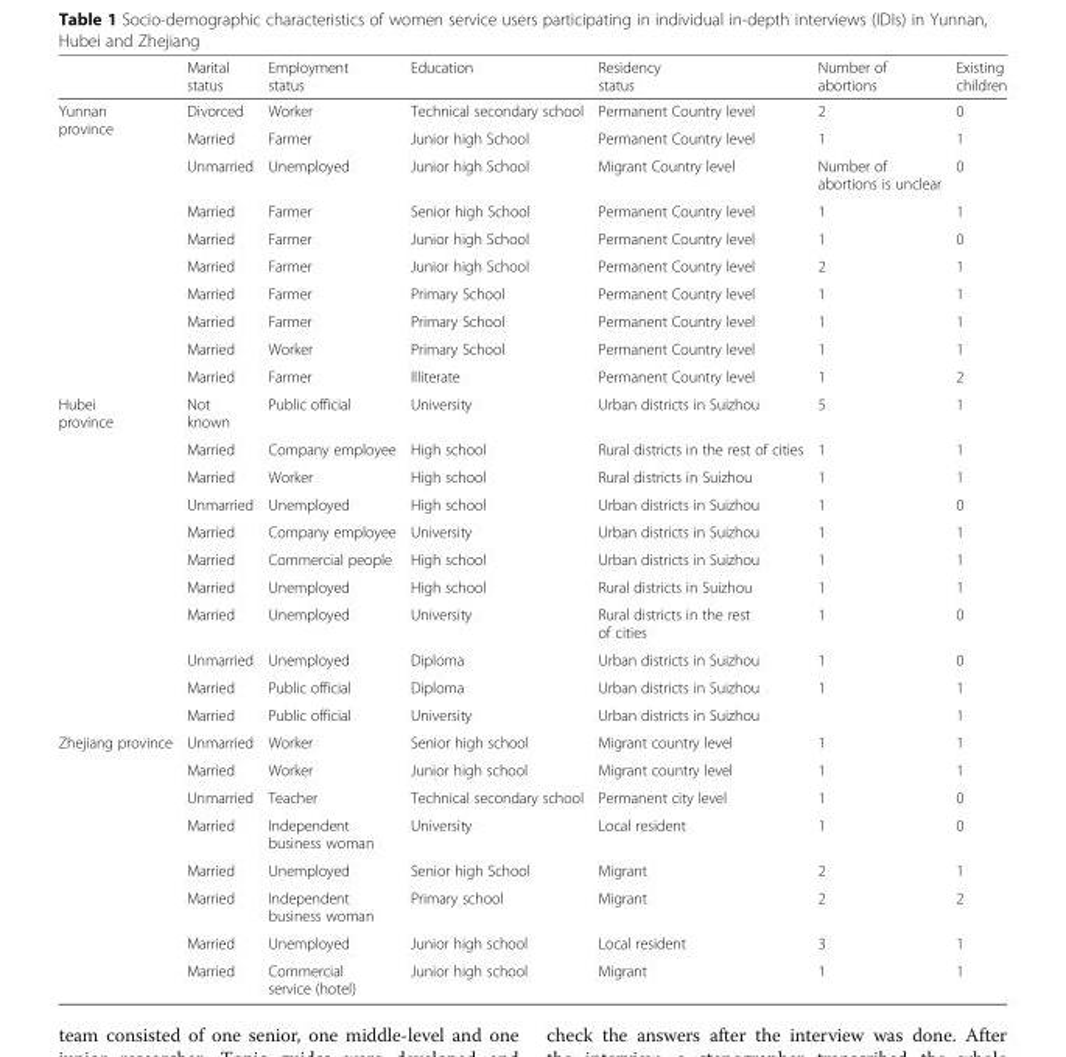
<table><thead><tr><td></td><td>Marital status</td><td>Employment status</td><td>Education</td><td>Residency status</td><td>Number of abortions</td><td>Existing children</td></tr></thead><tbody><tr><td rowspan="10">Yunnan province</td><td>Divorced</td><td>Worker</td><td>Technical secondary school</td><td>Permanent Country level</td><td>2</td><td>0</td></tr><tr><td>Married</td><td>Farmer</td><td>Junior high School</td><td>Permanent Country level</td><td>1</td><td>1</td></tr><tr><td>Unmarried</td><td>Unemployed</td><td>Junior high School</td><td>Migrant Country level</td><td>Number of abortions is unclear</td><td>0</td></tr><tr><td>Married</td><td>Farmer</td><td>Senior high School</td><td>Permanent Country level</td><td>1</td><td>1</td></tr><tr><td>Married</td><td>Farmer</td><td>Junior high School</td><td>Permanent Country level</td><td>1</td><td>0</td></tr><tr><td>Married</td><td>Farmer</td><td>Junior high School</td><td>Permanent Country level</td><td>2</td><td>1</td></tr><tr><td>Married</td><td>Farmer</td><td>Primary School</td><td>Permanent Country level</td><td>1</td><td>1</td></tr><tr><td>Married</td><td>Farmer</td><td>Primary School</td><td>Permanent Country level</td><td>1</td><td>1</td></tr><tr><td>Married</td><td>Worker</td><td>Primary School</td><td>Permanent Country level</td><td>1</td><td>1</td></tr><tr><td>Married</td><td>Farmer</td><td>Illiterate</td><td>Permanent Country level</td><td>1</td><td>2</td></tr><tr><td rowspan="11">Hubei province</td><td>Not known</td><td>Public official</td><td>University</td><td>Urban districts in Suizhou</td><td>5</td><td>1</td></tr><tr><td>Married</td><td>Company employee</td><td>High school</td><td>Rural districts in the rest of cities</td><td>1</td><td>1</td></tr><tr><td>Married</td><td>Worker</td><td>High school</td><td>Rural districts in Suizhou</td><td>1</td><td>1</td></tr><tr><td>Unmarried</td><td>Unemployed</td><td>High school</td><td>Urban districts in Suizhou</td><td>1</td><td>0</td></tr><tr><td>Married</td><td>Company employee</td><td>University</td><td>Urban districts in Suizhou</td><td>1</td><td>1</td></tr><tr><td>Married</td><td>Commercial people</td><td>High school</td><td>Urban districts in Suizhou</td><td>1</td><td>1</td></tr><tr><td>Married</td><td>Unemployed</td><td>High school</td><td>Rural districts in Suizhou</td><td>1</td><td>1</td></tr><tr><td>Married</td><td>Unemployed</td><td>University</td><td>Rural districts in the rest of cities</td><td>1</td><td>0</td></tr><tr><td>Unmarried</td><td>Unemployed</td><td>Diploma</td><td>Urban districts in Suizhou</td><td>1</td><td>0</td></tr><tr><td>Married</td><td>Public official</td><td>Diploma</td><td>Urban districts in Suizhou</td><td>1</td><td>1</td></tr><tr><td>Married</td><td>Public official</td><td>University</td><td>Urban districts in Suizhou</td><td></td><td>1</td></tr><tr><td rowspan="8">Zhejiang province</td><td>Unmarried</td><td>Worker</td><td>Senior high school</td><td>Migrant country level</td><td>1</td><td>1</td></tr><tr><td>Married</td><td>Worker</td><td>Junior high school</td><td>Migrant country level</td><td>1</td><td>1</td></tr><tr><td>Unmarried</td><td>Teacher</td><td>Technical secondary school</td><td>Permanent city level</td><td>1</td><td>0</td></tr><tr><td>Married</td><td>Independent business woman</td><td>University</td><td>Local resident</td><td>1</td><td>0</td></tr><tr><td>Married</td><td>Unemployed</td><td>Senior high School</td><td>Migrant</td><td>2</td><td>1</td></tr><tr><td>Married</td><td>Independent business woman</td><td>Primary school</td><td>Migrant</td><td>2</td><td>2</td></tr><tr><td>Married</td><td>Unemployed</td><td>Junior high school</td><td>Local resident</td><td>3</td><td>1</td></tr><tr><td>Married</td><td>Commercial service (hotel)</td><td>Junior high school</td><td>Migrant</td><td>1</td><td>1</td></tr></tbody></table>